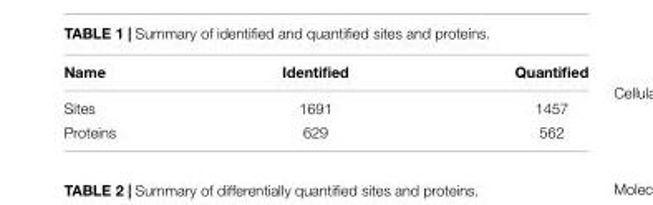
<table><thead><tr><td>Name</td><td>Identified</td><td>Quantified</td></tr></thead><tbody><tr><td>Sites</td><td>1691</td><td>1457</td></tr><tr><td>Proteins</td><td>629</td><td>562</td></tr></tbody></table>